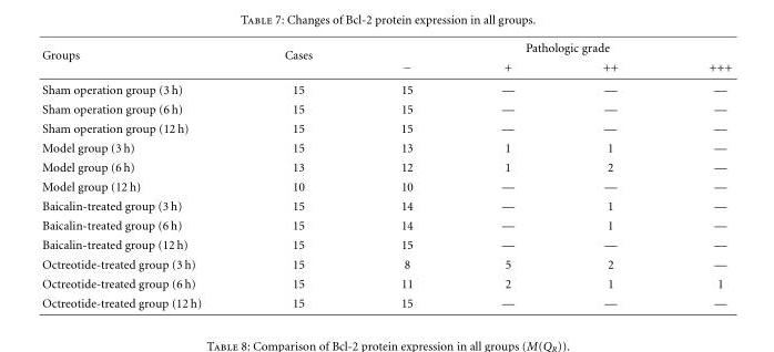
<table><thead><tr><td rowspan="2">Groups</td><td rowspan="2">Cases</td><td colspan="4">Pathologic grade</td></tr><tr><td>−</td><td>+</td><td>++</td><td>+++</td></tr></thead><tbody><tr><td>Sham operation group (3 h)</td><td>15</td><td>15</td><td>—</td><td>—</td><td>—</td></tr><tr><td>Sham operation group (6 h)</td><td>15</td><td>15</td><td>—</td><td>—</td><td>—</td></tr><tr><td>Sham operation group (12 h)</td><td>15</td><td>15</td><td>—</td><td>—</td><td>—</td></tr><tr><td>Model group (3 h)</td><td>15</td><td>13</td><td>1</td><td>1</td><td>—</td></tr><tr><td>Model group (6 h)</td><td>13</td><td>12</td><td>1</td><td>2</td><td>—</td></tr><tr><td>Model group (12 h)</td><td>10</td><td>10</td><td>—</td><td>—</td><td>—</td></tr><tr><td>Baicalin-treated group (3 h)</td><td>15</td><td>14</td><td>—</td><td>1</td><td>—</td></tr><tr><td>Baicalin-treated group (6 h)</td><td>15</td><td>14</td><td>—</td><td>1</td><td>—</td></tr><tr><td>Baicalin-treated group (12 h)</td><td>15</td><td>15</td><td>—</td><td>—</td><td>—</td></tr><tr><td>Octreotide-treated group (3 h)</td><td>15</td><td>8</td><td>5</td><td>2</td><td>—</td></tr><tr><td>Octreotide-treated group (6 h)</td><td>15</td><td>11</td><td>2</td><td>1</td><td>1</td></tr><tr><td>Octreotide-treated group (12 h)</td><td>15</td><td>15</td><td>—</td><td>—</td><td>—</td></tr></tbody></table>